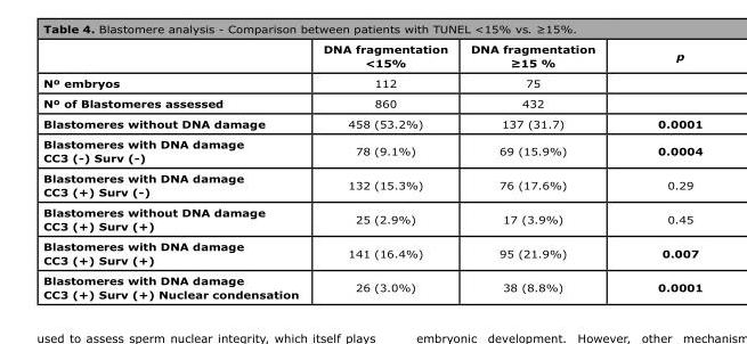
<table><thead><tr><td></td><td>DNA fragmentation &lt;15%</td><td>DNA fragmentation ≥15 %</td><td>p</td></tr></thead><tbody><tr><td>Nº embryos</td><td>112</td><td>75</td><td></td></tr><tr><td>Nº of Blastomeres assessed</td><td>860</td><td>432</td><td></td></tr><tr><td>Blastomeres without DNA damage</td><td>458 (53.2%)</td><td>137 (31.7)</td><td>0.0001</td></tr><tr><td>Blastomeres with DNA damage CC3 (-) Surv (-)</td><td>78 (9.1%)</td><td>69 (15.9%)</td><td>0.0004</td></tr><tr><td>Blastomeres with DNA damage CC3 (+) Surv (-)</td><td>132 (15.3%)</td><td>76 (17.6%)</td><td>0.29</td></tr><tr><td>Blastomeres without DNA damage CC3 (+) Surv (+)</td><td>25 (2.9%)</td><td>17 (3.9%)</td><td>0.45</td></tr><tr><td>Blastomeres with DNA damage CC3 (+) Surv (+)</td><td>141 (16.4%)</td><td>95 (21.9%)</td><td>0.007</td></tr><tr><td>Blastomeres with DNA damage CC3 (+) Surv (+) Nuclear condensation</td><td>26 (3.0%)</td><td>38 (8.8%)</td><td>0.0001</td></tr></tbody></table>